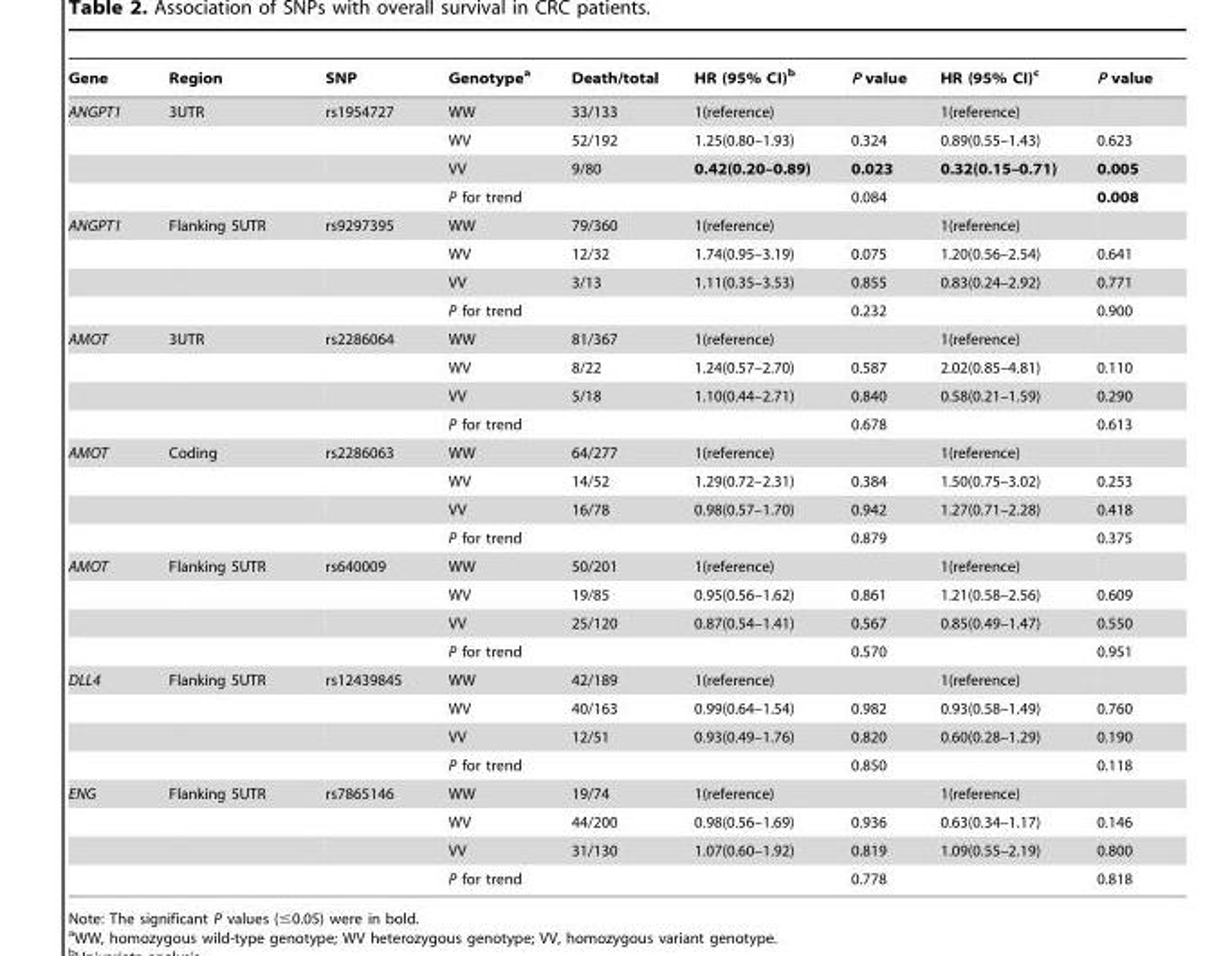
<table><thead><tr><td>Gene</td><td>Region</td><td>SNP</td><td>Genotype<sup>a</sup></td><td>Death/total</td><td>HR (95% CI)<sup>b</sup></td><td>P value</td><td>HR (95% CI)<sup>c</sup></td><td>P value</td></tr></thead><tbody><tr><td rowspan="4">ANGPT1</td><td>3UTR</td><td>rs1954727</td><td>WW</td><td>33/133</td><td>1(reference)</td><td></td><td>1(reference)</td><td></td></tr><tr><td></td><td></td><td>WV</td><td>52/192</td><td>1.25(0.80–1.93)</td><td>0.324</td><td>0.89(0.55–1.43)</td><td>0.623</td></tr><tr><td></td><td></td><td>VV</td><td>9/80</td><td>0.42(0.20–0.89)</td><td>0.023</td><td>0.32(0.15–0.71)</td><td>0.005</td></tr><tr><td></td><td></td><td>P for trend</td><td></td><td></td><td>0.084</td><td></td><td>0.008</td></tr><tr><td rowspan="4">ANGPT1</td><td>Flanking 5UTR</td><td>rs9297395</td><td>WW</td><td>79/360</td><td>1(reference)</td><td></td><td>1(reference)</td><td></td></tr><tr><td></td><td></td><td>WV</td><td>12/32</td><td>1.74(0.95–3.19)</td><td>0.075</td><td>1.20(0.56–2.54)</td><td>0.641</td></tr><tr><td></td><td></td><td>VV</td><td>3/13</td><td>1.11(0.35–3.53)</td><td>0.855</td><td>0.83(0.24–2.92)</td><td>0.771</td></tr><tr><td></td><td></td><td>P for trend</td><td></td><td></td><td>0.232</td><td></td><td>0.900</td></tr><tr><td rowspan="4">AMOT</td><td>3UTR</td><td>rs2286064</td><td>WW</td><td>81/367</td><td>1(reference)</td><td></td><td>1(reference)</td><td></td></tr><tr><td></td><td></td><td>WV</td><td>8/22</td><td>1.24(0.57–2.70)</td><td>0.587</td><td>2.02(0.85–4.81)</td><td>0.110</td></tr><tr><td></td><td></td><td>VV</td><td>5/18</td><td>1.10(0.44–2.71)</td><td>0.840</td><td>0.58(0.21–1.59)</td><td>0.290</td></tr><tr><td></td><td></td><td>P for trend</td><td></td><td></td><td>0.678</td><td></td><td>0.613</td></tr><tr><td rowspan="4">AMOT</td><td>Coding</td><td>rs2286063</td><td>WW</td><td>64/277</td><td>1(reference)</td><td></td><td>1(reference)</td><td></td></tr><tr><td></td><td></td><td>WV</td><td>14/52</td><td>1.29(0.72–2.31)</td><td>0.384</td><td>1.50(0.75–3.02)</td><td>0.253</td></tr><tr><td></td><td></td><td>VV</td><td>16/78</td><td>0.98(0.57–1.70)</td><td>0.942</td><td>1.27(0.71–2.28)</td><td>0.418</td></tr><tr><td></td><td></td><td>P for trend</td><td></td><td></td><td>0.879</td><td></td><td>0.375</td></tr><tr><td rowspan="4">AMOT</td><td>Flanking 5UTR</td><td>rs640009</td><td>WW</td><td>50/201</td><td>1(reference)</td><td></td><td>1(reference)</td><td></td></tr><tr><td></td><td></td><td>WV</td><td>19/85</td><td>0.95(0.56–1.62)</td><td>0.861</td><td>1.21(0.58–2.56)</td><td>0.609</td></tr><tr><td></td><td></td><td>VV</td><td>25/120</td><td>0.87(0.54–1.41)</td><td>0.567</td><td>0.85(0.49–1.47)</td><td>0.550</td></tr><tr><td></td><td></td><td>P for trend</td><td></td><td></td><td>0.570</td><td></td><td>0.951</td></tr><tr><td rowspan="4">DLL4</td><td>Flanking 5UTR</td><td>rs12439845</td><td>WW</td><td>42/189</td><td>1(reference)</td><td></td><td>1(reference)</td><td></td></tr><tr><td></td><td></td><td>WV</td><td>40/163</td><td>0.99(0.64–1.54)</td><td>0.982</td><td>0.93(0.58–1.49)</td><td>0.760</td></tr><tr><td></td><td></td><td>VV</td><td>12/51</td><td>0.93(0.49–1.76)</td><td>0.820</td><td>0.60(0.28–1.29)</td><td>0.190</td></tr><tr><td></td><td></td><td>P for trend</td><td></td><td></td><td>0.850</td><td></td><td>0.118</td></tr><tr><td rowspan="4">ENG</td><td>Flanking 5UTR</td><td>rs7865146</td><td>WW</td><td>19/74</td><td>1(reference)</td><td></td><td>1(reference)</td><td></td></tr><tr><td></td><td></td><td>WV</td><td>44/200</td><td>0.98(0.56–1.69)</td><td>0.936</td><td>0.63(0.34–1.17)</td><td>0.146</td></tr><tr><td></td><td></td><td>VV</td><td>31/130</td><td>1.07(0.60–1.92)</td><td>0.819</td><td>1.09(0.55–2.19)</td><td>0.800</td></tr><tr><td></td><td></td><td>P for trend</td><td></td><td></td><td>0.778</td><td></td><td>0.818</td></tr></tbody></table>